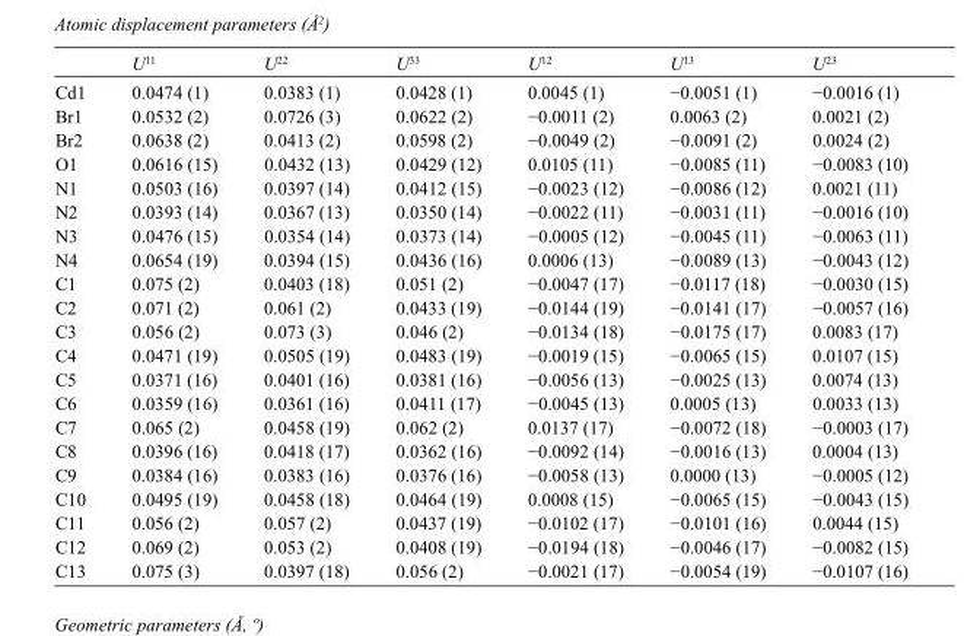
<table><thead><tr><td></td><td>U<sup>11</sup></td><td>U<sup>22</sup></td><td>U<sup>33</sup></td><td>U<sup>12</sup></td><td>U<sup>13</sup></td><td>U<sup>23</sup></td></tr></thead><tbody><tr><td>Cd1</td><td>0.0474 (1)</td><td>0.0383 (1)</td><td>0.0428 (1)</td><td>0.0045 (1)</td><td>−0.0051 (1)</td><td>−0.0016 (1)</td></tr><tr><td>Br1</td><td>0.0532 (2)</td><td>0.0726 (3)</td><td>0.0622 (2)</td><td>−0.0011 (2)</td><td>0.0063 (2)</td><td>0.0021 (2)</td></tr><tr><td>Br2</td><td>0.0638 (2)</td><td>0.0413 (2)</td><td>0.0598 (2)</td><td>−0.0049 (2)</td><td>−0.0091 (2)</td><td>0.0024 (2)</td></tr><tr><td>O1</td><td>0.0616 (15)</td><td>0.0432 (13)</td><td>0.0429 (12)</td><td>0.0105 (11)</td><td>−0.0085 (11)</td><td>−0.0083 (10)</td></tr><tr><td>N1</td><td>0.0503 (16)</td><td>0.0397 (14)</td><td>0.0412 (15)</td><td>−0.0023 (12)</td><td>−0.0086 (12)</td><td>0.0021 (11)</td></tr><tr><td>N2</td><td>0.0393 (14)</td><td>0.0367 (13)</td><td>0.0350 (14)</td><td>−0.0022 (11)</td><td>−0.0031 (11)</td><td>−0.0016 (10)</td></tr><tr><td>N3</td><td>0.0476 (15)</td><td>0.0354 (14)</td><td>0.0373 (14)</td><td>−0.0005 (12)</td><td>−0.0045 (11)</td><td>−0.0063 (11)</td></tr><tr><td>N4</td><td>0.0654 (19)</td><td>0.0394 (15)</td><td>0.0436 (16)</td><td>0.0006 (13)</td><td>−0.0089 (13)</td><td>−0.0043 (12)</td></tr><tr><td>C1</td><td>0.075 (2)</td><td>0.0403 (18)</td><td>0.051 (2)</td><td>−0.0047 (17)</td><td>−0.0117 (18)</td><td>−0.0030 (15)</td></tr><tr><td>C2</td><td>0.071 (2)</td><td>0.061 (2)</td><td>0.0433 (19)</td><td>−0.0144 (19)</td><td>−0.0141 (17)</td><td>−0.0057 (16)</td></tr><tr><td>C3</td><td>0.056 (2)</td><td>0.073 (3)</td><td>0.046 (2)</td><td>−0.0134 (18)</td><td>−0.0175 (17)</td><td>0.0083 (17)</td></tr><tr><td>C4</td><td>0.0471 (19)</td><td>0.0505 (19)</td><td>0.0483 (19)</td><td>−0.0019 (15)</td><td>−0.0065 (15)</td><td>0.0107 (15)</td></tr><tr><td>C5</td><td>0.0371 (16)</td><td>0.0401 (16)</td><td>0.0381 (16)</td><td>−0.0056 (13)</td><td>−0.0025 (13)</td><td>0.0074 (13)</td></tr><tr><td>C6</td><td>0.0359 (16)</td><td>0.0361 (16)</td><td>0.0411 (17)</td><td>−0.0045 (13)</td><td>0.0005 (13)</td><td>0.0033 (13)</td></tr><tr><td>C7</td><td>0.065 (2)</td><td>0.0458 (19)</td><td>0.062 (2)</td><td>0.0137 (17)</td><td>−0.0072 (18)</td><td>−0.0003 (17)</td></tr><tr><td>C8</td><td>0.0396 (16)</td><td>0.0418 (17)</td><td>0.0362 (16)</td><td>−0.0092 (14)</td><td>−0.0016 (13)</td><td>0.0004 (13)</td></tr><tr><td>C9</td><td>0.0384 (16)</td><td>0.0383 (16)</td><td>0.0376 (16)</td><td>−0.0058 (13)</td><td>0.0000 (13)</td><td>−0.0005 (12)</td></tr><tr><td>C10</td><td>0.0495 (19)</td><td>0.0458 (18)</td><td>0.0464 (19)</td><td>0.0008 (15)</td><td>−0.0065 (15)</td><td>−0.0043 (15)</td></tr><tr><td>C11</td><td>0.056 (2)</td><td>0.057 (2)</td><td>0.0437 (19)</td><td>−0.0102 (17)</td><td>−0.0101 (16)</td><td>0.0044 (15)</td></tr><tr><td>C12</td><td>0.069 (2)</td><td>0.053 (2)</td><td>0.0408 (19)</td><td>−0.0194 (18)</td><td>−0.0046 (17)</td><td>−0.0082 (15)</td></tr><tr><td>C13</td><td>0.075 (3)</td><td>0.0397 (18)</td><td>0.056 (2)</td><td>−0.0021 (17)</td><td>−0.0054 (19)</td><td>−0.0107 (16)</td></tr></tbody></table>